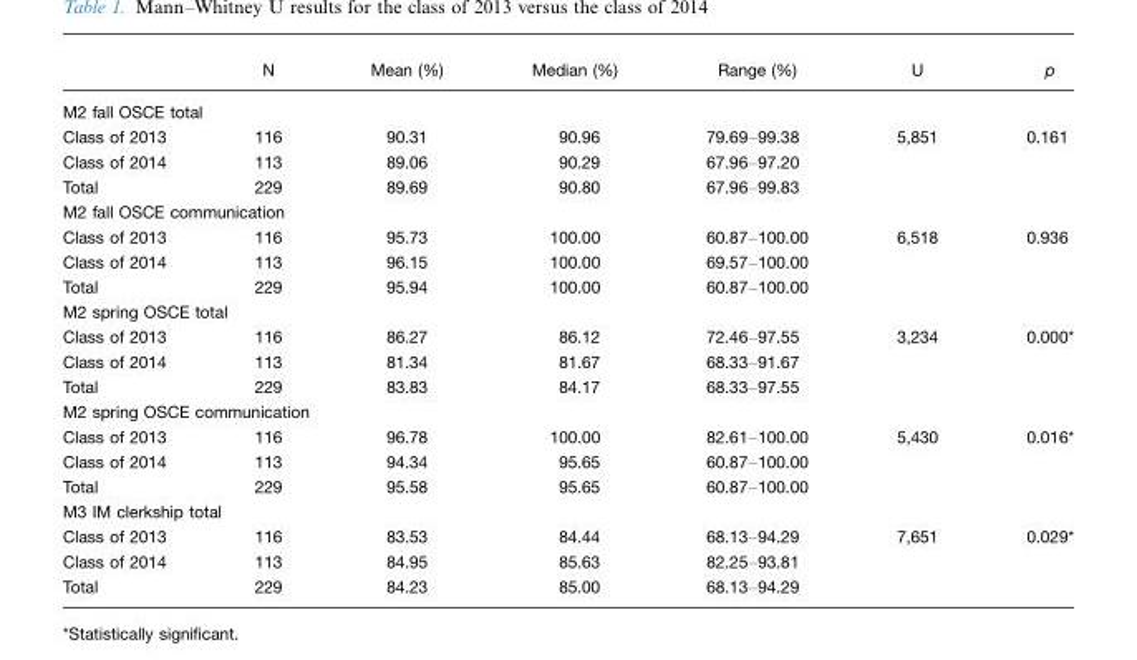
<table><thead><tr><td></td><td>N</td><td>Mean (%)</td><td>Median (%)</td><td>Range (%)</td><td>U</td><td>p</td></tr></thead><tbody><tr><td colspan="7">M2 fall OSCE total</td></tr><tr><td>Class of 2013</td><td>116</td><td>90.31</td><td>90.96</td><td>79.69–99.38</td><td>5,851</td><td>0.161</td></tr><tr><td>Class of 2014</td><td>113</td><td>89.06</td><td>90.29</td><td>67.96–97.20</td><td></td><td></td></tr><tr><td>Total</td><td>229</td><td>89.69</td><td>90.80</td><td>67.96–99.83</td><td></td><td></td></tr><tr><td colspan="7">M2 fall OSCE communication</td></tr><tr><td>Class of 2013</td><td>116</td><td>95.73</td><td>100.00</td><td>60.87–100.00</td><td>6,518</td><td>0.936</td></tr><tr><td>Class of 2014</td><td>113</td><td>96.15</td><td>100.00</td><td>69.57–100.00</td><td></td><td></td></tr><tr><td>Total</td><td>229</td><td>95.94</td><td>100.00</td><td>60.87–100.00</td><td></td><td></td></tr><tr><td colspan="7">M2 spring OSCE total</td></tr><tr><td>Class of 2013</td><td>116</td><td>86.27</td><td>86.12</td><td>72.46–97.55</td><td>3,234</td><td>0.000*</td></tr><tr><td>Class of 2014</td><td>113</td><td>81.34</td><td>81.67</td><td>68.33–91.67</td><td></td><td></td></tr><tr><td>Total</td><td>229</td><td>83.83</td><td>84.17</td><td>68.33–97.55</td><td></td><td></td></tr><tr><td colspan="7">M2 spring OSCE communication</td></tr><tr><td>Class of 2013</td><td>116</td><td>96.78</td><td>100.00</td><td>82.61–100.00</td><td>5,430</td><td>0.016*</td></tr><tr><td>Class of 2014</td><td>113</td><td>94.34</td><td>95.65</td><td>60.87–100.00</td><td></td><td></td></tr><tr><td>Total</td><td>229</td><td>95.58</td><td>95.65</td><td>60.87–100.00</td><td></td><td></td></tr><tr><td colspan="7">M3 IM clerkship total</td></tr><tr><td>Class of 2013</td><td>116</td><td>83.53</td><td>84.44</td><td>68.13–94.29</td><td>7,651</td><td>0.029*</td></tr><tr><td>Class of 2014</td><td>113</td><td>84.95</td><td>85.63</td><td>82.25–93.81</td><td></td><td></td></tr><tr><td>Total</td><td>229</td><td>84.23</td><td>85.00</td><td>68.13–94.29</td><td></td><td></td></tr></tbody></table>